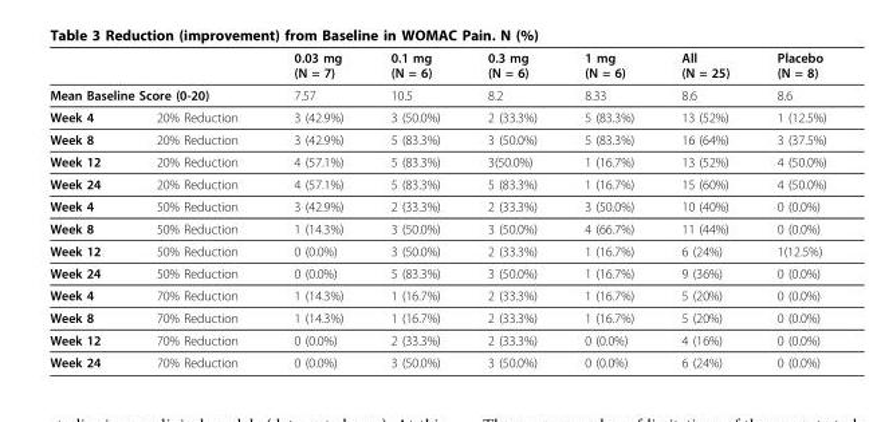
<table><thead><tr><td></td><td></td><td>0.03 mg (N = 7)</td><td>0.1 mg (N = 6)</td><td>0.3 mg (N = 6)</td><td>1 mg (N = 6)</td><td>All (N = 25)</td><td>Placebo (N = 8)</td></tr></thead><tbody><tr><td colspan="2">Mean Baseline Score (0-20)</td><td>7.57</td><td>10.5</td><td>8.2</td><td>8.33</td><td>8.6</td><td>8.6</td></tr><tr><td>Week 4</td><td>20% Reduction</td><td>3 (42.9%)</td><td>3 (50.0%)</td><td>2 (33.3%)</td><td>5 (83.3%)</td><td>13 (52%)</td><td>1 (12.5%)</td></tr><tr><td>Week 8</td><td>20% Reduction</td><td>3 (42.9%)</td><td>5 (83.3%)</td><td>3 (50.0%)</td><td>5 (83.3%)</td><td>16 (64%)</td><td>3 (37.5%)</td></tr><tr><td>Week 12</td><td>20% Reduction</td><td>4 (57.1%)</td><td>5 (83.3%)</td><td>3(50.0%)</td><td>1 (16.7%)</td><td>13 (52%)</td><td>4 (50.0%)</td></tr><tr><td>Week 24</td><td>20% Reduction</td><td>4 (57.1%)</td><td>5 (83.3%)</td><td>5 (83.3%)</td><td>1 (16.7%)</td><td>15 (60%)</td><td>4 (50.0%)</td></tr><tr><td>Week 4</td><td>50% Reduction</td><td>3 (42.9%)</td><td>2 (33.3%)</td><td>2 (33.3%)</td><td>3 (50.0%)</td><td>10 (40%)</td><td>0 (0.0%)</td></tr><tr><td>Week 8</td><td>50% Reduction</td><td>1 (14.3%)</td><td>3 (50.0%)</td><td>3 (50.0%)</td><td>4 (66.7%)</td><td>11 (44%)</td><td>0 (0.0%)</td></tr><tr><td>Week 12</td><td>50% Reduction</td><td>0 (0.0%)</td><td>3 (50.0%)</td><td>2 (33.3%)</td><td>1 (16.7%)</td><td>6 (24%)</td><td>1(12.5%)</td></tr><tr><td>Week 24</td><td>50% Reduction</td><td>0 (0.0%)</td><td>5 (83.3%)</td><td>3 (50.0%)</td><td>1 (16.7%)</td><td>9 (36%)</td><td>0 (0.0%)</td></tr><tr><td>Week 4</td><td>70% Reduction</td><td>1 (14.3%)</td><td>1 (16.7%)</td><td>2 (33.3%)</td><td>1 (16.7%)</td><td>5 (20%)</td><td>0 (0.0%)</td></tr><tr><td>Week 8</td><td>70% Reduction</td><td>1 (14.3%)</td><td>1 (16.7%)</td><td>2 (33.3%)</td><td>1 (16.7%)</td><td>5 (20%)</td><td>0 (0.0%)</td></tr><tr><td>Week 12</td><td>70% Reduction</td><td>0 (0.0%)</td><td>2 (33.3%)</td><td>2 (33.3%)</td><td>0 (0.0%)</td><td>4 (16%)</td><td>0 (0.0%)</td></tr><tr><td>Week 24</td><td>70% Reduction</td><td>0 (0.0%)</td><td>3 (50.0%)</td><td>3 (50.0%)</td><td>0 (0.0%)</td><td>6 (24%)</td><td>0 (0.0%)</td></tr></tbody></table>